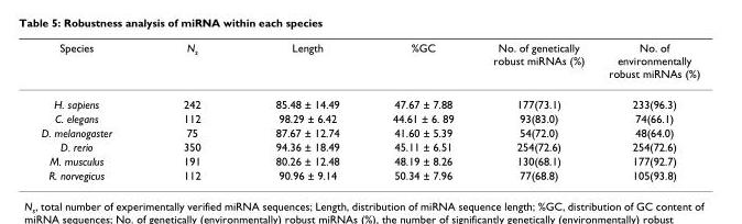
<table><thead><tr><td>Species</td><td>N<sub>s</sub></td><td>Length</td><td>%GC</td><td>No. of genetically robust miRNAs (%)</td><td>No. of environmentally robust miRNAs (%)</td></tr></thead><tbody><tr><td>H. sapiens</td><td>242</td><td>85.48 ± 14.49</td><td>47.67 ± 7.88</td><td>177(73.1)</td><td>233(96.3)</td></tr><tr><td>C. elegans</td><td>112</td><td>98.29 ± 6.42</td><td>44.61 ± 6. 89</td><td>93(83.0)</td><td>74(66.1)</td></tr><tr><td>D. melanogaster</td><td>75</td><td>87.67 ± 12.74</td><td>41.60 ± 5.39</td><td>54(72.0)</td><td>48(64.0)</td></tr><tr><td>D. rerio</td><td>350</td><td>94.36 ± 18.49</td><td>45.11 ± 6.51</td><td>254(72.6)</td><td>254(72.6)</td></tr><tr><td>M. musculus</td><td>191</td><td>80.26 ± 12.48</td><td>48.19 ± 8.26</td><td>130(68.1)</td><td>177(92.7)</td></tr><tr><td>R. norvegicus</td><td>112</td><td>90.96 ± 9.14</td><td>50.34 ± 7.96</td><td>77(68.8)</td><td>105(93.8)</td></tr></tbody></table>